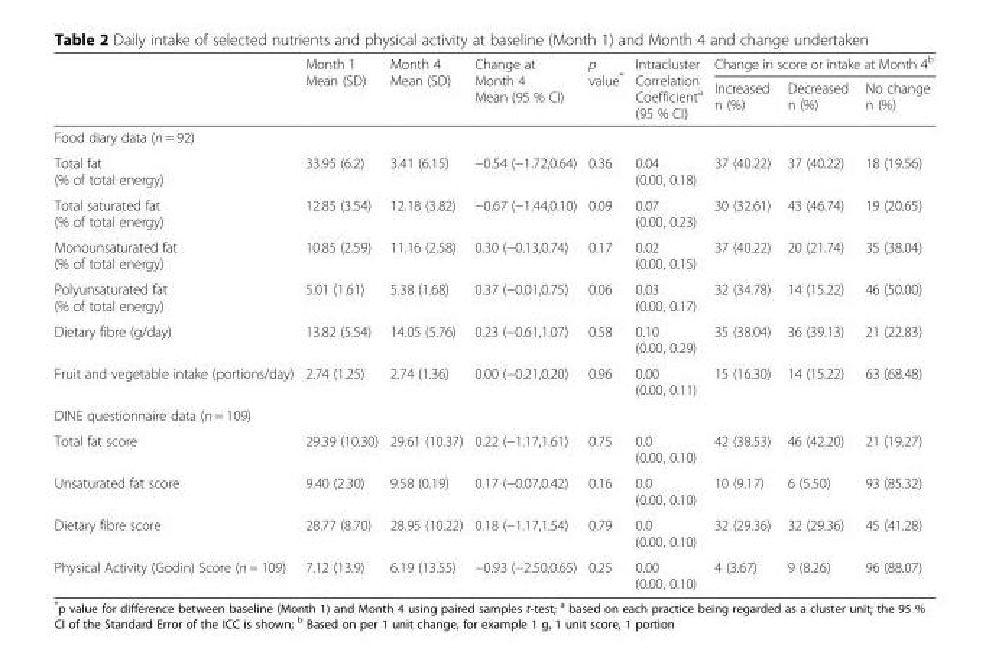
<table><thead><tr><td rowspan="2"></td><td rowspan="2">Month 1 Mean (SD)</td><td rowspan="2">Month 4 Mean (SD)</td><td rowspan="2">Change at Month 4 Mean (95 % CI)</td><td rowspan="2">p value*</td><td rowspan="2">Intracluster Correlation Coefficient<sup>a</sup> (95 % CI)</td><td colspan="3">Change in score or intake at Month 4<sup>b</sup></td></tr><tr><td>Increased n (%)</td><td>Decreased n (%)</td><td>No change n (%)</td></tr></thead><tbody><tr><td colspan="9">Food diary data (n = 92)</td></tr><tr><td>Total fat (% of total energy)</td><td>33.95 (6.2)</td><td>3.41 (6.15)</td><td>−0.54 (−1.72,0.64)</td><td>0.36</td><td>0.04 (0.00, 0.18)</td><td>37 (40.22)</td><td>37 (40.22)</td><td>18 (19.56)</td></tr><tr><td>Total saturated fat (% of total energy)</td><td>12.85 (3.54)</td><td>12.18 (3.82)</td><td>−0.67 (−1.44,0.10)</td><td>0.09</td><td>0.07 (0.00, 0.23)</td><td>30 (32.61)</td><td>43 (46.74)</td><td>19 (20.65)</td></tr><tr><td>Monounsaturated fat (% of total energy)</td><td>10.85 (2.59)</td><td>11.16 (2.58)</td><td>0.30 (−0.13,0.74)</td><td>0.17</td><td>0.02 (0.00, 0.15)</td><td>37 (40.22)</td><td>20 (21.74)</td><td>35 (38.04)</td></tr><tr><td>Polyunsaturated fat (% of total energy)</td><td>5.01 (1.61)</td><td>5.38 (1.68)</td><td>0.37 (−0.01,0.75)</td><td>0.06</td><td>0.03 (0.00, 0.17)</td><td>32 (34.78)</td><td>14 (15.22)</td><td>46 (50.00)</td></tr><tr><td>Dietary fibre (g/day)</td><td>13.82 (5.54)</td><td>14.05 (5.76)</td><td>0.23 (−0.61,1.07)</td><td>0.58</td><td>0.10 (0.00, 0.29)</td><td>35 (38.04)</td><td>36 (39.13)</td><td>21 (22.83)</td></tr><tr><td>Fruit and vegetable intake (portions/day)</td><td>2.74 (1.25)</td><td>2.74 (1.36)</td><td>0.00 (−0.21,0.20)</td><td>0.96</td><td>0.00 (0.00, 0.11)</td><td>15 (16.30)</td><td>14 (15.22)</td><td>63 (68.48)</td></tr><tr><td colspan="9">DINE questionnaire data (n = 109)</td></tr><tr><td>Total fat score</td><td>29.39 (10.30)</td><td>29.61 (10.37)</td><td>0.22 (−1.17,1.61)</td><td>0.75</td><td>0.0 (0.00, 0.10)</td><td>42 (38.53)</td><td>46 (42.20)</td><td>21 (19.27)</td></tr><tr><td>Unsaturated fat score</td><td>9.40 (2.30)</td><td>9.58 (0.19)</td><td>0.17 (−0.07,0.42)</td><td>0.16</td><td>0.0 (0.00, 0.10)</td><td>10 (9.17)</td><td>6 (5.50)</td><td>93 (85.32)</td></tr><tr><td>Dietary fibre score</td><td>28.77 (8.70)</td><td>28.95 (10.22)</td><td>0.18 (−1.17,1.54)</td><td>0.79</td><td>0.0 (0.00, 0.10)</td><td>32 (29.36)</td><td>32 (29.36)</td><td>45 (41.28)</td></tr><tr><td>Physical Activity (Godin) Score (n = 109)</td><td>7.12 (13.9)</td><td>6.19 (13.55)</td><td>−0.93 (−2.50,0.65)</td><td>0.25</td><td>0.00 (0.00, 0.10)</td><td>4 (3.67)</td><td>9 (8.26)</td><td>96 (88.07)</td></tr></tbody></table>